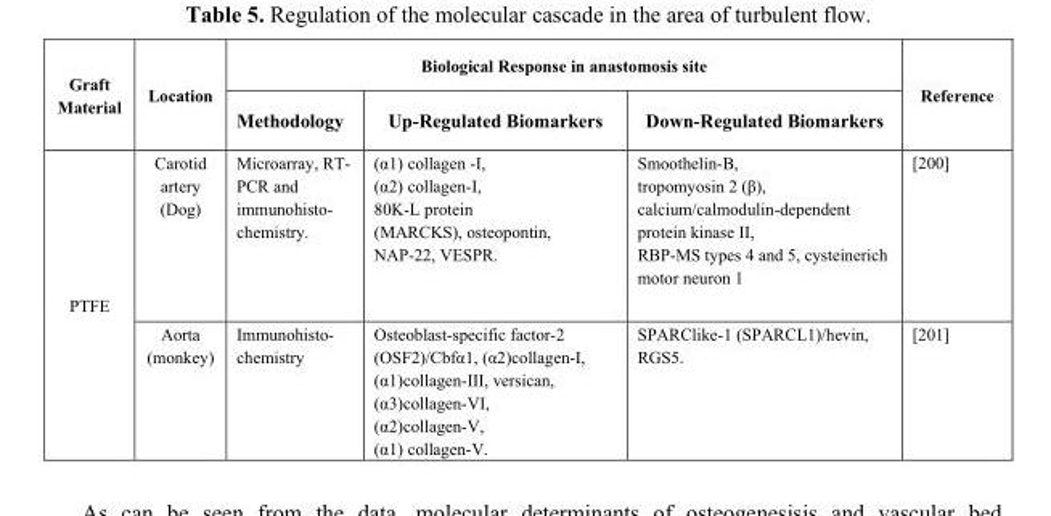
<table><thead><tr><td rowspan="2">Graft Material</td><td rowspan="2">Location</td><td colspan="3">Biological Response in anastomosis site</td><td rowspan="2">Reference</td></tr><tr><td>Methodology</td><td>Up-Regulated Biomarkers</td><td>Down-Regulated Biomarkers</td></tr></thead><tbody><tr><td rowspan="2">PTFE</td><td>Carotid artery (Dog)</td><td>Microarray, RT- PCR and immunohisto- chemistry.</td><td>(α1) collagen -I, (α2) collagen-I, 80K-L protein (MARCKS), osteopontin, NAP-22, VESPR.</td><td>Smoothelin-B, tropomyosin 2 (β), calcium/calmodulin-dependent protein kinase II, RBP-MS types 4 and 5, cysteinerich motor neuron 1</td><td>[200]</td></tr><tr><td>Aorta (monkey)</td><td>Immunohisto- chemistry</td><td>Osteoblast-specific factor-2 (OSF2)/Cbfα1, (α2)collagen-I, (α1)collagen-III, versican, (α3)collagen-VI, (α2)collagen-V, (α1) collagen-V.</td><td>SPARClike-1 (SPARCL1)/hevin, RGS5.</td><td>[201]</td></tr></tbody></table>